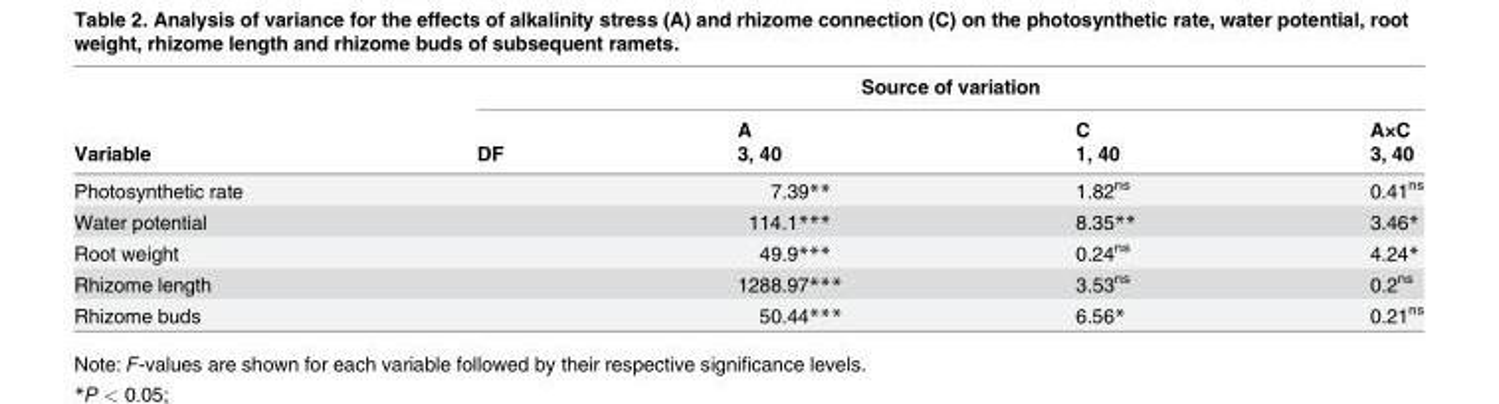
<table><thead><tr><td rowspan="3">Variable</td><td colspan="4">Source of variation</td></tr><tr><td rowspan="2">DF</td><td rowspan="2">A 3, 40</td><td rowspan="2">C 1, 40</td><td rowspan="2">A×C 3, 40</td></tr><tr></tr></thead><tbody><tr><td>Photosynthetic rate</td><td></td><td>7.39**</td><td>1.82<sup>ns</sup></td><td>0.41<sup>ns</sup></td></tr><tr><td>Water potential</td><td></td><td>114.1***</td><td>8.35**</td><td>3.46*</td></tr><tr><td>Root weight</td><td></td><td>49.9***</td><td>0.24<sup>ns</sup></td><td>4.24*</td></tr><tr><td>Rhizome length</td><td></td><td>1288.97***</td><td>3.53<sup>ns</sup></td><td>0.2<sup>ns</sup></td></tr><tr><td>Rhizome buds</td><td></td><td>50.44***</td><td>6.56*</td><td>0.21<sup>ns</sup></td></tr></tbody></table>